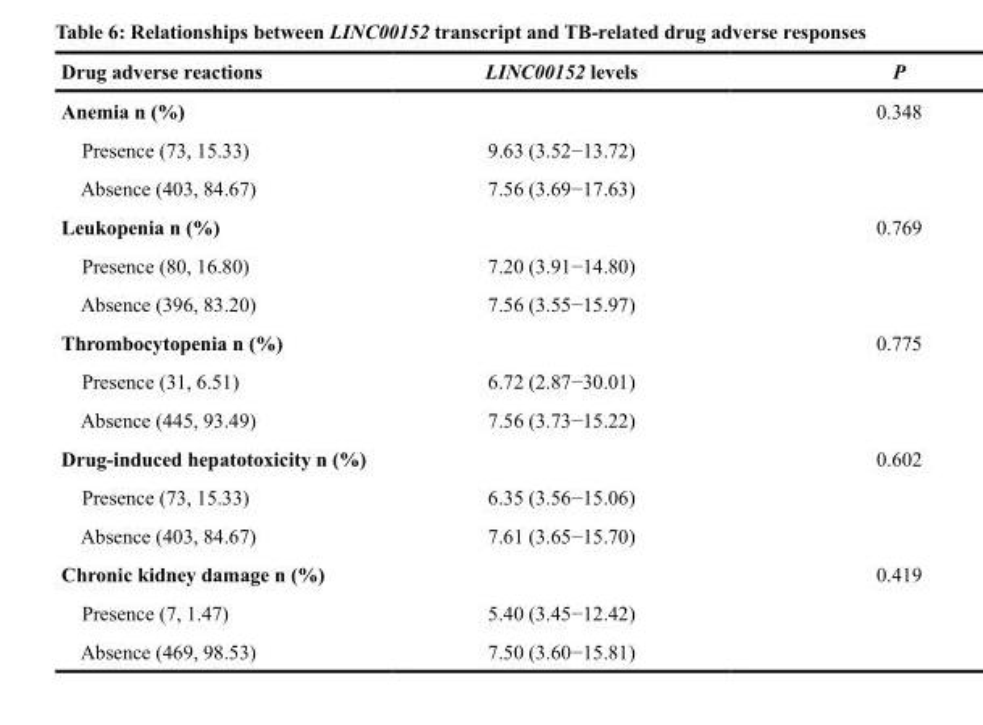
<table><thead><tr><td>Drug adverse reactions</td><td>LINC00152 levels</td><td>P</td></tr></thead><tbody><tr><td>Anemia n (%)</td><td></td><td>0.348</td></tr><tr><td>Presence (73, 15.33)</td><td>9.63 (3.52−13.72)</td><td></td></tr><tr><td>Absence (403, 84.67)</td><td>7.56 (3.69−17.63)</td><td></td></tr><tr><td>Leukopenia n (%)</td><td></td><td>0.769</td></tr><tr><td>Presence (80, 16.80)</td><td>7.20 (3.91−14.80)</td><td></td></tr><tr><td>Absence (396, 83.20)</td><td>7.56 (3.55−15.97)</td><td></td></tr><tr><td>Thrombocytopenia n (%)</td><td></td><td>0.775</td></tr><tr><td>Presence (31, 6.51)</td><td>6.72 (2.87−30.01)</td><td></td></tr><tr><td>Absence (445, 93.49)</td><td>7.56 (3.73−15.22)</td><td></td></tr><tr><td>Drug-induced hepatotoxicity n (%)</td><td></td><td>0.602</td></tr><tr><td>Presence (73, 15.33)</td><td>6.35 (3.56−15.06)</td><td></td></tr><tr><td>Absence (403, 84.67)</td><td>7.61 (3.65−15.70)</td><td></td></tr><tr><td>Chronic kidney damage n (%)</td><td></td><td>0.419</td></tr><tr><td>Presence (7, 1.47)</td><td>5.40 (3.45−12.42)</td><td></td></tr><tr><td>Absence (469, 98.53)</td><td>7.50 (3.60−15.81)</td><td></td></tr></tbody></table>